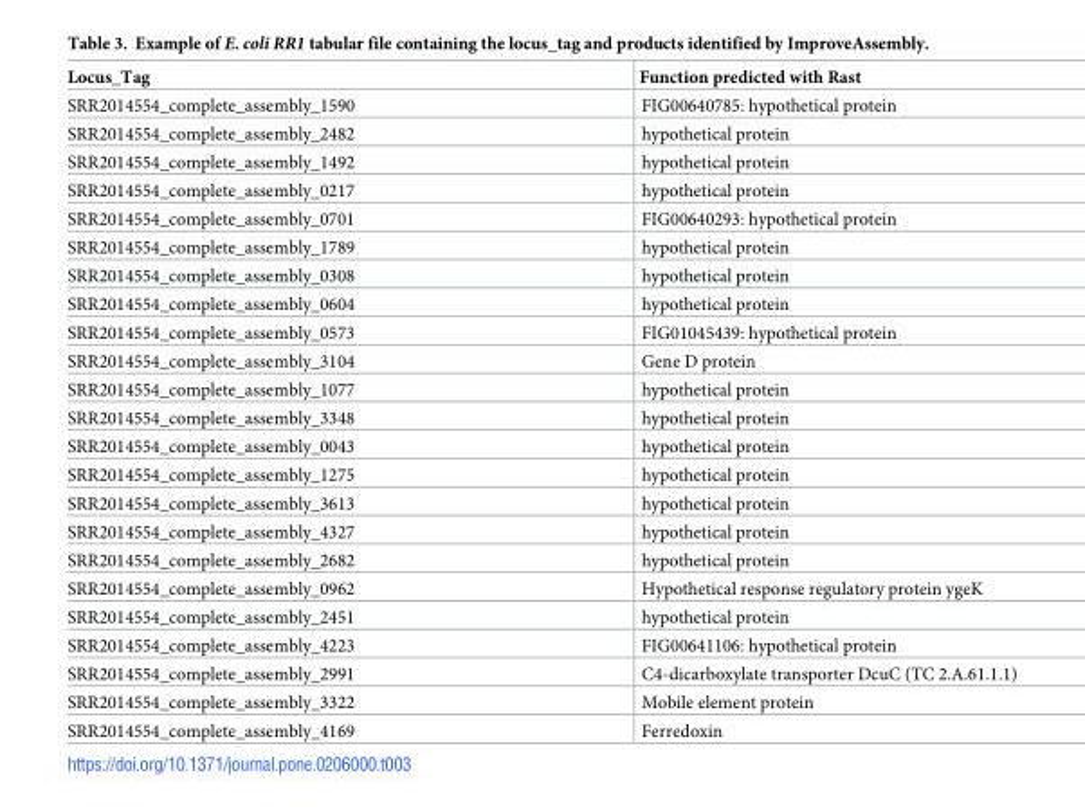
<table><thead><tr><td>Locus_Tag</td><td>Function predicted with Rast</td></tr></thead><tbody><tr><td>SRR2014554_complete_assembly_1590</td><td>FIG00640785: hypothetical protein</td></tr><tr><td>SRR2014554_complete_assembly_2482</td><td>hypothetical protein</td></tr><tr><td>SRR2014554_complete_assembly_1492</td><td>hypothetical protein</td></tr><tr><td>SRR2014554_complete_assembly_0217</td><td>hypothetical protein</td></tr><tr><td>SRR2014554_complete_assembly_0701</td><td>FIG00640293: hypothetical protein</td></tr><tr><td>SRR2014554_complete_assembly_1789</td><td>hypothetical protein</td></tr><tr><td>SRR2014554_complete_assembly_0308</td><td>hypothetical protein</td></tr><tr><td>SRR2014554_complete_assembly_0604</td><td>hypothetical protein</td></tr><tr><td>SRR2014554_complete_assembly_0573</td><td>FIG01045439: hypothetical protein</td></tr><tr><td>SRR2014554_complete_assembly_3104</td><td>Gene D protein</td></tr><tr><td>SRR2014554_complete_assembly_1077</td><td>hypothetical protein</td></tr><tr><td>SRR2014554_complete_assembly_3348</td><td>hypothetical protein</td></tr><tr><td>SRR2014554_complete_assembly_0043</td><td>hypothetical protein</td></tr><tr><td>SRR2014554_complete_assembly_1275</td><td>hypothetical protein</td></tr><tr><td>SRR2014554_complete_assembly_3613</td><td>hypothetical protein</td></tr><tr><td>SRR2014554_complete_assembly_4327</td><td>hypothetical protein</td></tr><tr><td>SRR2014554_complete_assembly_2682</td><td>hypothetical protein</td></tr><tr><td>SRR2014554_complete_assembly_0962</td><td>Hypothetical response regulatory protein ygeK</td></tr><tr><td>SRR2014554_complete_assembly_2451</td><td>hypothetical protein</td></tr><tr><td>SRR2014554_complete_assembly_4223</td><td>FIG00641106: hypothetical protein</td></tr><tr><td>SRR2014554_complete_assembly_2991</td><td>C4-dicarboxylate transporter DcuC (TC 2.A.61.1.1)</td></tr><tr><td>SRR2014554_complete_assembly_3322</td><td>Mobile element protein</td></tr><tr><td>SRR2014554_complete_assembly_4169</td><td>Ferredoxin</td></tr></tbody></table>